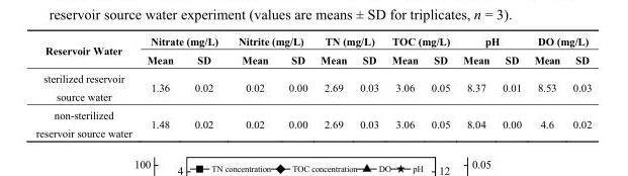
<table><thead><tr><td rowspan="2">Reservoir Water</td><td colspan="2">Nitrate (mg/L)</td><td colspan="2">Nitrite (mg/L)</td><td colspan="2">TN (mg/L)</td><td colspan="2">TOC (mg/L)</td><td colspan="2">pH</td><td colspan="2">DO (mg/L)</td></tr><tr><td>Mean</td><td>SD</td><td>Mean</td><td>SD</td><td>Mean</td><td>SD</td><td>Mean</td><td>SD</td><td>Mean</td><td>SD</td><td>Mean</td><td>SD</td></tr></thead><tbody><tr><td>sterilized reservoir source water</td><td>1.36</td><td>0.02</td><td>0.02</td><td>0.00</td><td>2.69</td><td>0.03</td><td>3.06</td><td>0.05</td><td>8.37</td><td>0.01</td><td>8.53</td><td>0.03</td></tr><tr><td>non-sterilized reservoir source water</td><td>1.48</td><td>0.02</td><td>0.02</td><td>0.00</td><td>2.69</td><td>0.03</td><td>3.06</td><td>0.05</td><td>8.04</td><td>0.00</td><td>4.6</td><td>0.02</td></tr></tbody></table>